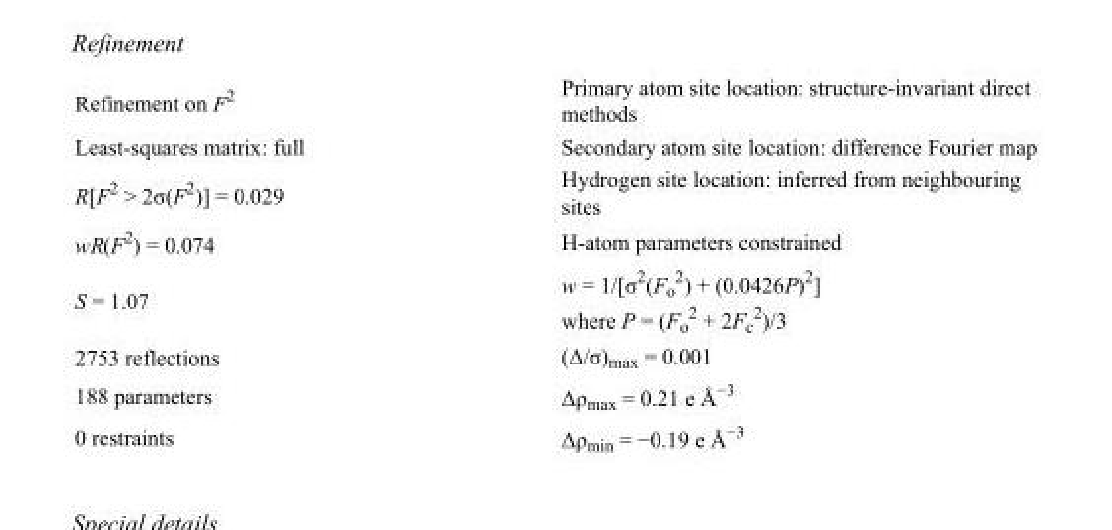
<table><tbody><tr><td>Refinement on F<sup>2</sup></td><td>Primary atom site location: structure-invariant direct methods</td></tr><tr><td>Least-squares matrix: full</td><td>Secondary atom site location: difference Fourier map</td></tr><tr><td>R[F<sup>2</sup> &gt; 2σ(F<sup>2</sup>)] = 0.029</td><td>Hydrogen site location: inferred from neighbouring sites</td></tr><tr><td>wR(F<sup>2</sup>) = 0.074</td><td>H-atom parameters constrained</td></tr><tr><td>S = 1.07</td><td>w = 1/[σ<sup>2</sup>(F<sub>o</sub> <sup>2</sup>) + (0.0426P)<sup>2</sup>] where P = (F<sub>o</sub> <sup>2</sup> + 2F<sub>c</sub> <sup>2</sup>)/3</td></tr><tr><td>2753 reflections</td><td>(Δ/σ)<sub>max</sub> = 0.001</td></tr><tr><td>188 parameters</td><td>Δρ<sub>max</sub> = 0.21 e Å<sup>−3</sup></td></tr><tr><td>0 restraints</td><td>Δρ<sub>min</sub> = −0.19 e Å<sup>−3</sup></td></tr></tbody></table>